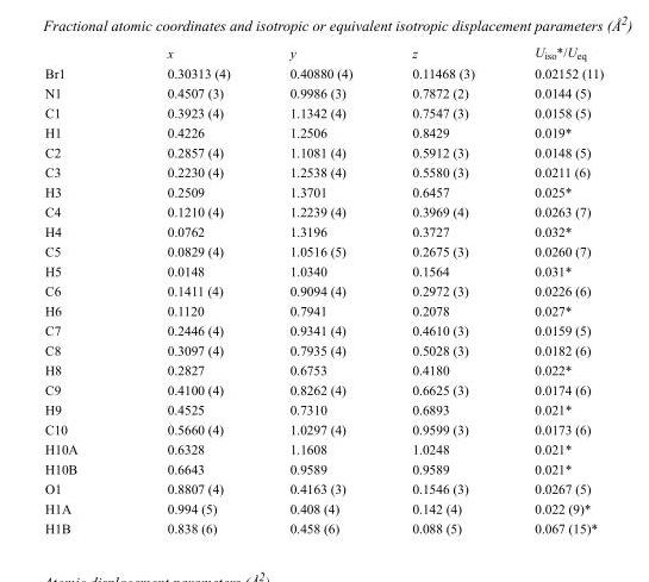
<table><thead><tr><td></td><td>x</td><td>y</td><td>z</td><td>U<sub>iso</sub>*/U<sub>eq</sub></td></tr></thead><tbody><tr><td>Br1</td><td>0.30313 (4)</td><td>0.40880 (4)</td><td>0.11468 (3)</td><td>0.02152 (11)</td></tr><tr><td>N1</td><td>0.4507 (3)</td><td>0.9986 (3)</td><td>0.7872 (2)</td><td>0.0144 (5)</td></tr><tr><td>C1</td><td>0.3923 (4)</td><td>1.1342 (4)</td><td>0.7547 (3)</td><td>0.0158 (5)</td></tr><tr><td>H1</td><td>0.4226</td><td>1.2506</td><td>0.8429</td><td>0.019*</td></tr><tr><td>C2</td><td>0.2857 (4)</td><td>1.1081 (4)</td><td>0.5912 (3)</td><td>0.0148 (5)</td></tr><tr><td>C3</td><td>0.2230 (4)</td><td>1.2538 (4)</td><td>0.5580 (3)</td><td>0.0211 (6)</td></tr><tr><td>H3</td><td>0.2509</td><td>1.3701</td><td>0.6457</td><td>0.025*</td></tr><tr><td>C4</td><td>0.1210 (4)</td><td>1.2239 (4)</td><td>0.3969 (4)</td><td>0.0263 (7)</td></tr><tr><td>H4</td><td>0.0762</td><td>1.3196</td><td>0.3727</td><td>0.032*</td></tr><tr><td>C5</td><td>0.0829 (4)</td><td>1.0516 (5)</td><td>0.2675 (3)</td><td>0.0260 (7)</td></tr><tr><td>H5</td><td>0.0148</td><td>1.0340</td><td>0.1564</td><td>0.031*</td></tr><tr><td>C6</td><td>0.1411 (4)</td><td>0.9094 (4)</td><td>0.2972 (3)</td><td>0.0226 (6)</td></tr><tr><td>H6</td><td>0.1120</td><td>0.7941</td><td>0.2078</td><td>0.027*</td></tr><tr><td>C7</td><td>0.2446 (4)</td><td>0.9341 (4)</td><td>0.4610 (3)</td><td>0.0159 (5)</td></tr><tr><td>C8</td><td>0.3097 (4)</td><td>0.7935 (4)</td><td>0.5028 (3)</td><td>0.0182 (6)</td></tr><tr><td>H8</td><td>0.2827</td><td>0.6753</td><td>0.4180</td><td>0.022*</td></tr><tr><td>C9</td><td>0.4100 (4)</td><td>0.8262 (4)</td><td>0.6625 (3)</td><td>0.0174 (6)</td></tr><tr><td>H9</td><td>0.4525</td><td>0.7310</td><td>0.6893</td><td>0.021*</td></tr><tr><td>C10</td><td>0.5660 (4)</td><td>1.0297 (4)</td><td>0.9599 (3)</td><td>0.0173 (6)</td></tr><tr><td>H10A</td><td>0.6328</td><td>1.1608</td><td>1.0248</td><td>0.021*</td></tr><tr><td>H10B</td><td>0.6643</td><td>0.9589</td><td>0.9589</td><td>0.021*</td></tr><tr><td>O1</td><td>0.8807 (4)</td><td>0.4163 (3)</td><td>0.1546 (3)</td><td>0.0267 (5)</td></tr><tr><td>H1A</td><td>0.994 (5)</td><td>0.408 (4)</td><td>0.142 (4)</td><td>0.022 (9)*</td></tr><tr><td>H1B</td><td>0.838 (6)</td><td>0.458 (6)</td><td>0.088 (5)</td><td>0.067 (15)*</td></tr></tbody></table>